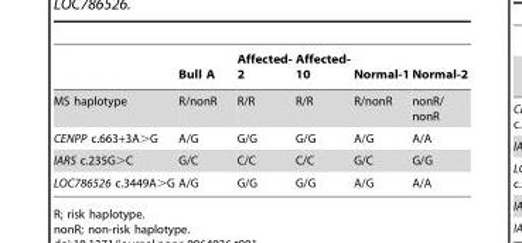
<table><thead><tr><td></td><td>Bull A</td><td>Affected- 2</td><td>Affected- 10</td><td>Normal-1</td><td>Normal-2</td></tr></thead><tbody><tr><td>MS haplotype</td><td>R/nonR</td><td>R/R</td><td>R/R</td><td>R/nonR</td><td>nonR/ nonR</td></tr><tr><td>CENPP c.663+3A&gt;G</td><td>A/G</td><td>G/G</td><td>G/G</td><td>A/G</td><td>A/A</td></tr><tr><td>IARS c.235G&gt;C</td><td>G/C</td><td>C/C</td><td>C/C</td><td>G/C</td><td>G/G</td></tr><tr><td>LOC786526 c.3449A&gt;G</td><td>A/G</td><td>G/G</td><td>G/G</td><td>A/G</td><td>A/A</td></tr></tbody></table>